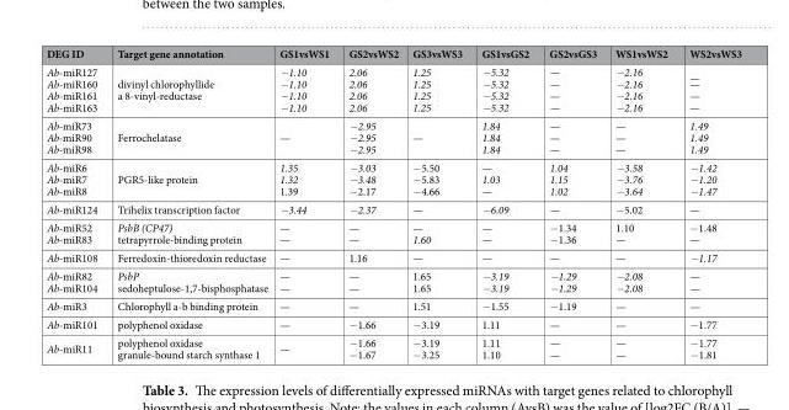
<table><thead><tr><td>DEG ID</td><td>Target gene annotation</td><td>GS1vsWS1</td><td>GS2vsWS2</td><td>GS3vsWS3</td><td>GS1vsGS2</td><td>GS2vsGS3</td><td>WS1vsWS2</td><td>WS2vsWS3</td></tr></thead><tbody><tr><td>Ab-miR127 Ab-miR160 Ab-miR161 Ab-miR163</td><td>divinyl chlorophyllide a 8-vinyl-reductase</td><td>−1.10 −1.10 −1.10 −1.10</td><td>2.06 2.06 2.06 2.06</td><td>1.25 1.25 1.25 1.25</td><td>−5.32 −5.32 −5.32 −5.32</td><td>— — — —</td><td>−2.16 −2.16 −2.16 −2.16</td><td>— — — —</td></tr><tr><td>Ab-miR73 Ab-miR90 Ab-miR98</td><td>Ferrochelatase</td><td>—</td><td>−2.95 −2.95 −2.95</td><td>—</td><td>1.84 1.84 1.84</td><td>— — —</td><td>— — —</td><td>1.49 1.49 1.49</td></tr><tr><td>Ab-miR6 Ab-miR7 Ab-miR8</td><td>PGR5-like protein</td><td>1.35 1.32 1.39</td><td>−3.03 −3.48 −2.17</td><td>−5.50 −5.83 −4.66</td><td>— 1.03 —</td><td>1.04 1.15 1.02</td><td>−3.58 −3.76 −3.64</td><td>−1.42 −1.20 −1.47</td></tr><tr><td>Ab-miR124</td><td>Trihelix transcription factor</td><td>−3.44</td><td>−2.37</td><td>—</td><td>−6.09</td><td>—</td><td>−5.02</td><td>—</td></tr><tr><td>Ab-miR52 Ab-miR83</td><td>PsbB (CP47) tetrapyrrole-binding protein</td><td>— —</td><td>— —</td><td>— 1.60</td><td>— —</td><td>−1.34 −1.36</td><td>1.10 —</td><td>−1.48 —</td></tr><tr><td>Ab-miR108</td><td>Ferredoxin-thioredoxin reductase</td><td>—</td><td>1.16</td><td>—</td><td>—</td><td>—</td><td>—</td><td>−1.17</td></tr><tr><td>Ab-miR82 Ab-miR104</td><td>PsbP sedoheptulose-1,7-bisphosphatase</td><td>— —</td><td>— —</td><td>1.65 1.65</td><td>−3.19 −3.19</td><td>−1.29 −1.29</td><td>−2.08 −2.08</td><td>— —</td></tr><tr><td>Ab-miR3</td><td>Chlorophyll a-b binding protein</td><td>—</td><td>—</td><td>1.51</td><td>−1.55</td><td>−1.19</td><td>—</td><td>—</td></tr><tr><td>Ab-miR101</td><td>polyphenol oxidase</td><td>—</td><td>−1.66</td><td>−3.19</td><td>1.11</td><td>—</td><td>—</td><td>−1.77</td></tr><tr><td>Ab-miR11</td><td>polyphenol oxidase granule-bound starch synthase 1</td><td>—</td><td>−1.66 −1.67</td><td>−3.19 −3.25</td><td>1.11 1.10</td><td>— —</td><td>— —</td><td>−1.77 −1.81</td></tr></tbody></table>